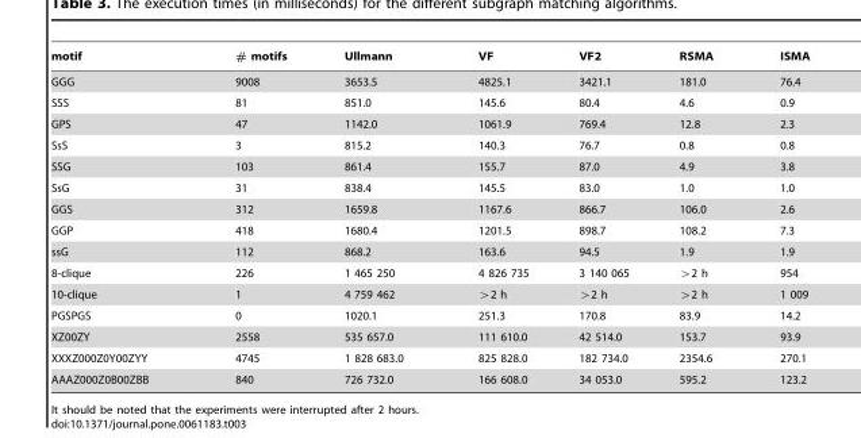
<table><thead><tr><td>motif</td><td># motifs</td><td>Ullmann</td><td>VF</td><td>VF2</td><td>RSMA</td><td>ISMA</td></tr></thead><tbody><tr><td>GGG</td><td>9008</td><td>3653.5</td><td>4825.1</td><td>3421.1</td><td>181.0</td><td>76.4</td></tr><tr><td>SSS</td><td>81</td><td>851.0</td><td>145.6</td><td>80.4</td><td>4.6</td><td>0.9</td></tr><tr><td>GPS</td><td>47</td><td>1142.0</td><td>1061.9</td><td>769.4</td><td>12.8</td><td>2.3</td></tr><tr><td>SsS</td><td>3</td><td>815.2</td><td>140.3</td><td>76.7</td><td>0.8</td><td>0.8</td></tr><tr><td>SSG</td><td>103</td><td>861.4</td><td>155.7</td><td>87.0</td><td>4.9</td><td>3.8</td></tr><tr><td>SsG</td><td>31</td><td>838.4</td><td>145.5</td><td>83.0</td><td>1.0</td><td>1.0</td></tr><tr><td>GGS</td><td>312</td><td>1659.8</td><td>1167.6</td><td>866.7</td><td>106.0</td><td>2.6</td></tr><tr><td>GGP</td><td>418</td><td>1680.4</td><td>1201.5</td><td>898.7</td><td>108.2</td><td>7.3</td></tr><tr><td>ssG</td><td>112</td><td>868.2</td><td>163.6</td><td>94.5</td><td>1.9</td><td>1.9</td></tr><tr><td>8-clique</td><td>226</td><td>1 465 250</td><td>4 826 735</td><td>3 140 065</td><td>w2 h</td><td>954</td></tr><tr><td>10-clique</td><td>1</td><td>4 759 462</td><td>w2 h</td><td>w2 h</td><td>w2 h</td><td>1 009</td></tr><tr><td>PGSPGS</td><td>0</td><td>1020.1</td><td>251.3</td><td>170.8</td><td>83.9</td><td>14.2</td></tr><tr><td>XZ00ZY</td><td>2558</td><td>535 657.0</td><td>111 610.0</td><td>42 514.0</td><td>153.7</td><td>93.9</td></tr><tr><td>XXXZ000Z0Y00ZYY</td><td>4745</td><td>1 828 683.0</td><td>825 828.0</td><td>182 734.0</td><td>2354.6</td><td>270.1</td></tr><tr><td>AAAZ000Z0B00ZBB</td><td>840</td><td>726 732.0</td><td>166 608.0</td><td>34 053.0</td><td>595.2</td><td>123.2</td></tr></tbody></table>